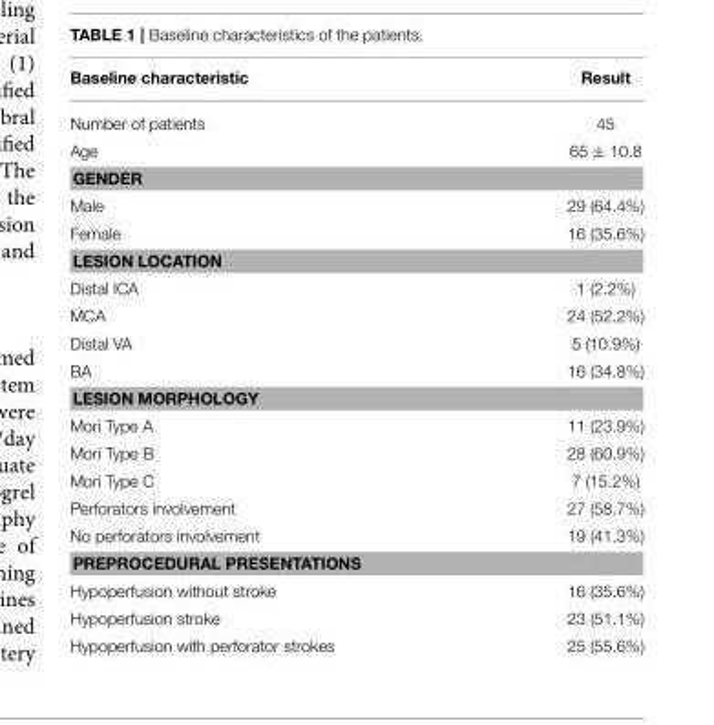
<table><thead><tr><td>Baseline characteristic</td><td>Result</td></tr></thead><tbody><tr><td>Number of patients</td><td>45</td></tr><tr><td>Age</td><td>65 ± 10.8</td></tr><tr><td colspan="2">GENDER</td></tr><tr><td>Male</td><td>29 (64.4%)</td></tr><tr><td>Female</td><td>16 (35.6%)</td></tr><tr><td colspan="2">LESION LOCATION</td></tr><tr><td>Distal ICA</td><td>1 (2.2%)</td></tr><tr><td>MCA</td><td>24 (52.2%)</td></tr><tr><td>Distal VA</td><td>5 (10.9%)</td></tr><tr><td>BA</td><td>16 (34.8%)</td></tr><tr><td colspan="2">LESION MORPHOLOGY</td></tr><tr><td>Mori Type A</td><td>11 (23.9%)</td></tr><tr><td>Mori Type B</td><td>28 (60.9%)</td></tr><tr><td>Mori Type C</td><td>7 (15.2%)</td></tr><tr><td>Perforators involvement</td><td>27 (58.7%)</td></tr><tr><td>No perforators involvement</td><td>19 (41.3%)</td></tr><tr><td colspan="2">PREPROCEDURAL PRESENTATIONS</td></tr><tr><td>Hypoperfusion without stroke</td><td>16 (35.6%)</td></tr><tr><td>Hypoperfusion stroke</td><td>23 (51.1%)</td></tr><tr><td>Hypoperfusion with perforator strokes</td><td>25 (55.6%)</td></tr></tbody></table>